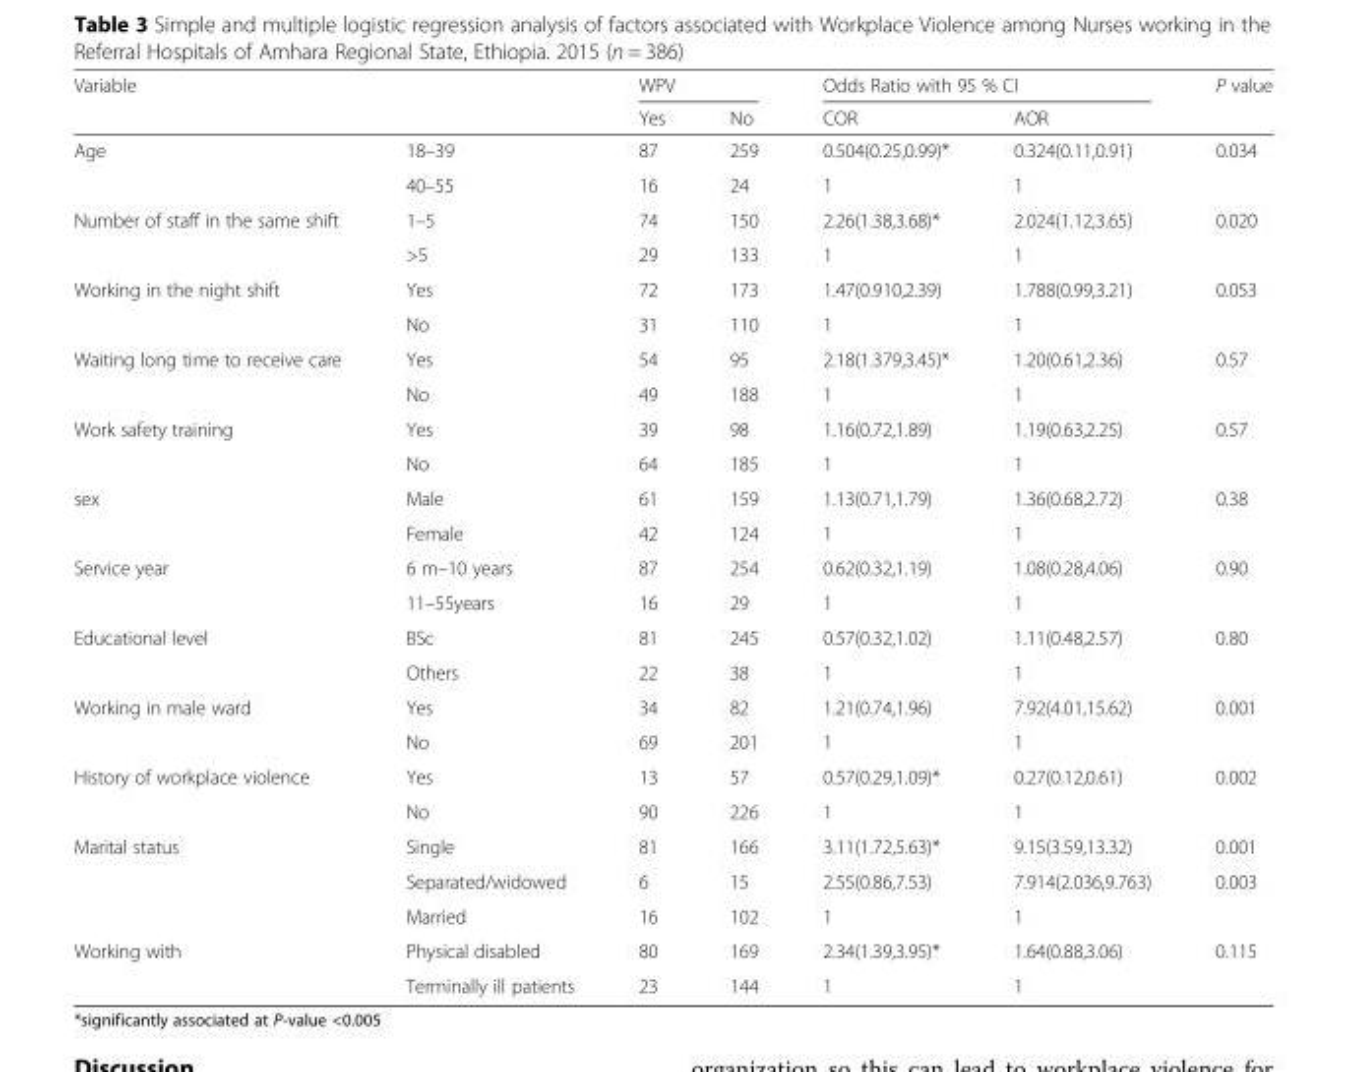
<table><thead><tr><td rowspan="2">Variable</td><td rowspan="2"></td><td colspan="2">WPV</td><td colspan="2">Odds Ratio with 95 % CI</td><td rowspan="2">P value</td></tr><tr><td>Yes</td><td>No</td><td>COR</td><td>AOR</td></tr></thead><tbody><tr><td rowspan="2">Age</td><td>18–39</td><td>87</td><td>259</td><td>0.504(0.25,0.99)*</td><td>0.324(0.11,0.91)</td><td>0.034</td></tr><tr><td>40–55</td><td>16</td><td>24</td><td>1</td><td>1</td><td></td></tr><tr><td rowspan="2">Number of staff in the same shift</td><td>1–5</td><td>74</td><td>150</td><td>2.26(1.38,3.68)*</td><td>2.024(1.12,3.65)</td><td>0.020</td></tr><tr><td>&gt;5</td><td>29</td><td>133</td><td>1</td><td>1</td><td></td></tr><tr><td rowspan="2">Working in the night shift</td><td>Yes</td><td>72</td><td>173</td><td>1.47(0.910,2.39)</td><td>1.788(0.99,3.21)</td><td>0.053</td></tr><tr><td>No</td><td>31</td><td>110</td><td>1</td><td>1</td><td></td></tr><tr><td rowspan="2">Waiting long time to receive care</td><td>Yes</td><td>54</td><td>95</td><td>2.18(1.379,3.45)*</td><td>1.20(0.61,2.36)</td><td>0.57</td></tr><tr><td>No</td><td>49</td><td>188</td><td>1</td><td>1</td><td></td></tr><tr><td rowspan="2">Work safety training</td><td>Yes</td><td>39</td><td>98</td><td>1.16(0.72,1.89)</td><td>1.19(0.63,2.25)</td><td>0.57</td></tr><tr><td>No</td><td>64</td><td>185</td><td>1</td><td>1</td><td></td></tr><tr><td rowspan="2">sex</td><td>Male</td><td>61</td><td>159</td><td>1.13(0.71,1.79)</td><td>1.36(0.68,2.72)</td><td>0.38</td></tr><tr><td>Female</td><td>42</td><td>124</td><td>1</td><td>1</td><td></td></tr><tr><td rowspan="2">Service year</td><td>6 m–10 years</td><td>87</td><td>254</td><td>0.62(0.32,1.19)</td><td>1.08(0.28,4.06)</td><td>0.90</td></tr><tr><td>11–55years</td><td>16</td><td>29</td><td>1</td><td>1</td><td></td></tr><tr><td rowspan="2">Educational level</td><td>BSc</td><td>81</td><td>245</td><td>0.57(0.32,1.02)</td><td>1.11(0.48,2.57)</td><td>0.80</td></tr><tr><td>Others</td><td>22</td><td>38</td><td>1</td><td>1</td><td></td></tr><tr><td rowspan="2">Working in male ward</td><td>Yes</td><td>34</td><td>82</td><td>1.21(0.74,1.96)</td><td>7.92(4.01,15.62)</td><td>0.001</td></tr><tr><td>No</td><td>69</td><td>201</td><td>1</td><td>1</td><td></td></tr><tr><td rowspan="2">History of workplace violence</td><td>Yes</td><td>13</td><td>57</td><td>0.57(0.29,1.09)*</td><td>0.27(0.12,0.61)</td><td>0.002</td></tr><tr><td>No</td><td>90</td><td>226</td><td>1</td><td>1</td><td></td></tr><tr><td rowspan="3">Marital status</td><td>Single</td><td>81</td><td>166</td><td>3.11(1.72,5.63)*</td><td>9.15(3.59,13.32)</td><td>0.001</td></tr><tr><td>Separated/widowed</td><td>6</td><td>15</td><td>2.55(0.86,7.53)</td><td>7.914(2.036,9.763)</td><td>0.003</td></tr><tr><td>Married</td><td>16</td><td>102</td><td>1</td><td>1</td><td></td></tr><tr><td rowspan="2">Working with</td><td>Physical disabled</td><td>80</td><td>169</td><td>2.34(1.39,3.95)*</td><td>1.64(0.88,3.06)</td><td>0.115</td></tr><tr><td>Terminally ill patients</td><td>23</td><td>144</td><td>1</td><td>1</td><td></td></tr></tbody></table>